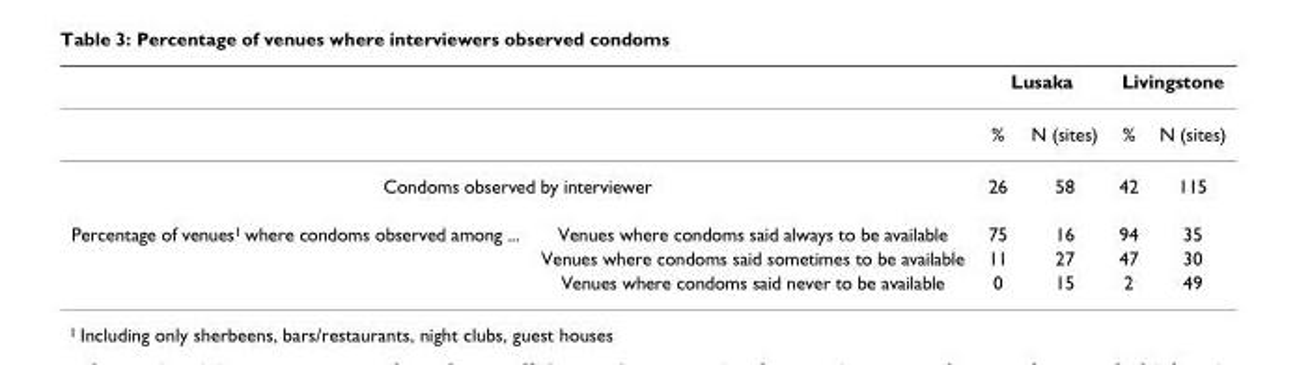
<table><thead><tr><td rowspan="2"></td><td rowspan="2"></td><td colspan="2">Lusaka</td><td colspan="2">Livingstone</td></tr><tr><td>%</td><td>N (sites)</td><td>%</td><td>N (sites)</td></tr></thead><tbody><tr><td colspan="2">Condoms observed by interviewer</td><td>26</td><td>58</td><td>42</td><td>115</td></tr><tr><td rowspan="3">Percentage of venues<sup>1</sup> where condoms observed among ...</td><td>Venues where condoms said always to be available</td><td>75</td><td>16</td><td>94</td><td>35</td></tr><tr><td>Venues where condoms said sometimes to be available</td><td>11</td><td>27</td><td>47</td><td>30</td></tr><tr><td>Venues where condoms said never to be available</td><td>0</td><td>15</td><td>2</td><td>49</td></tr></tbody></table>